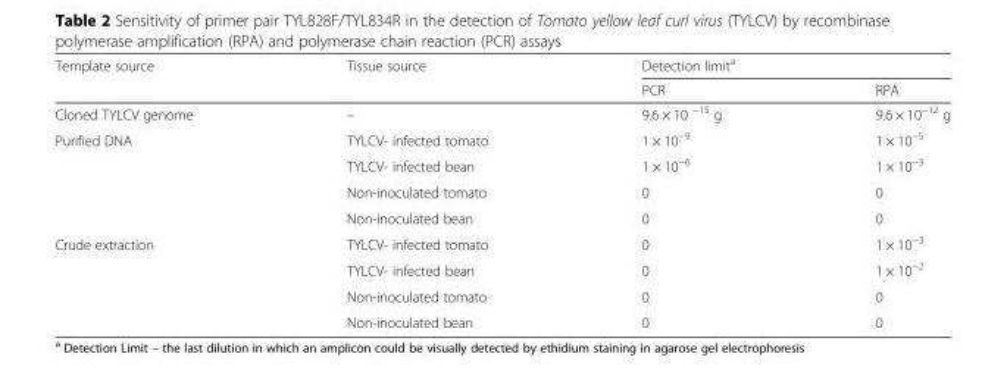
<table><thead><tr><td rowspan="2">Template source</td><td rowspan="2">Tissue source</td><td colspan="2">Detection limit<sup>a</sup></td></tr><tr><td>PCR</td><td>RPA</td></tr></thead><tbody><tr><td>Cloned TYLCV genome</td><td>–</td><td>9.6 × 10 <sup>−15</sup> g</td><td>9.6 × 10<sup>−12</sup> g</td></tr><tr><td rowspan="4">Purified DNA</td><td>TYLCV- infected tomato</td><td>1 × 10<sup>−9</sup></td><td>1 × 10<sup>−5</sup></td></tr><tr><td>TYLCV- infected bean</td><td>1 × 10<sup>−6</sup></td><td>1 × 10<sup>−3</sup></td></tr><tr><td>Non-inoculated tomato</td><td>0</td><td>0</td></tr><tr><td>Non-inoculated bean</td><td>0</td><td>0</td></tr><tr><td rowspan="4">Crude extraction</td><td>TYLCV- infected tomato</td><td>0</td><td>1 × 10<sup>−3</sup></td></tr><tr><td>TYLCV- infected bean</td><td>0</td><td>1 × 10<sup>−2</sup></td></tr><tr><td>Non-inoculated tomato</td><td>0</td><td>0</td></tr><tr><td>Non-inoculated bean</td><td>0</td><td>0</td></tr></tbody></table>